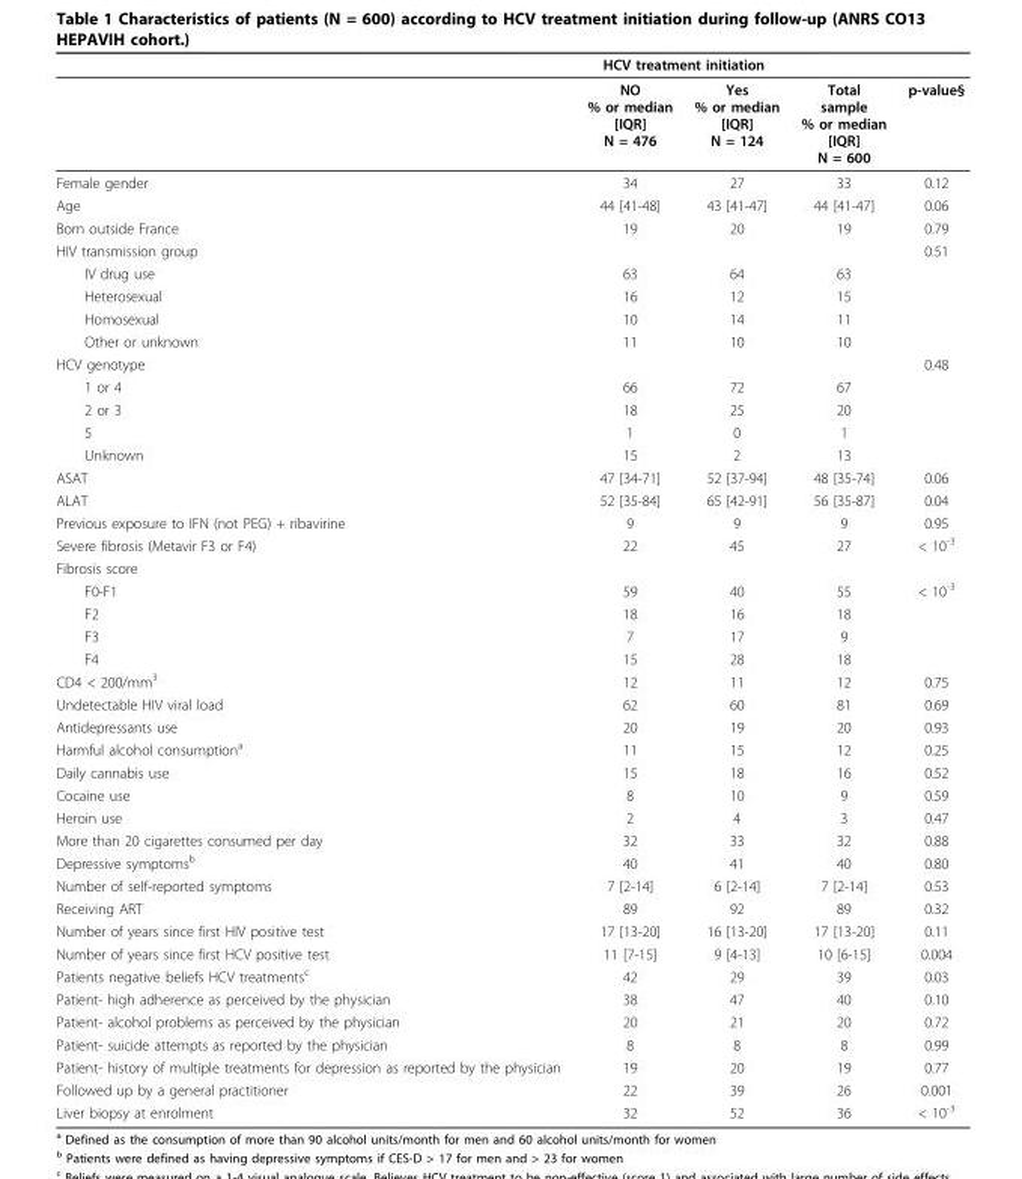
<table><thead><tr><td rowspan="2"></td><td colspan="2">HCV treatment initiation</td><td rowspan="2">Total sample % or median [IQR] N = 600</td><td rowspan="2">p-value§</td></tr><tr><td>NO % or median [IQR] N = 476</td><td>Yes % or median [IQR] N = 124</td></tr></thead><tbody><tr><td>Female gender</td><td>34</td><td>27</td><td>33</td><td>0.12</td></tr><tr><td>Age</td><td>44 [41-48]</td><td>43 [41-47]</td><td>44 [41-47]</td><td>0.06</td></tr><tr><td>Born outside France</td><td>19</td><td>20</td><td>19</td><td>0.79</td></tr><tr><td>HIV transmission group</td><td></td><td></td><td></td><td>0.51</td></tr><tr><td>IV drug use</td><td>63</td><td>64</td><td>63</td><td></td></tr><tr><td>Heterosexual</td><td>16</td><td>12</td><td>15</td><td></td></tr><tr><td>Homosexual</td><td>10</td><td>14</td><td>11</td><td></td></tr><tr><td>Other or unknown</td><td>11</td><td>10</td><td>10</td><td></td></tr><tr><td>HCV genotype</td><td></td><td></td><td></td><td>0.48</td></tr><tr><td>1 or 4</td><td>66</td><td>72</td><td>67</td><td></td></tr><tr><td>2 or 3</td><td>18</td><td>25</td><td>20</td><td></td></tr><tr><td>5</td><td>1</td><td>0</td><td>1</td><td></td></tr><tr><td>Unknown</td><td>15</td><td>2</td><td>13</td><td></td></tr><tr><td>ASAT</td><td>47 [34-71]</td><td>52 [37-94]</td><td>48 [35-74]</td><td>0.06</td></tr><tr><td>ALAT</td><td>52 [35-84]</td><td>65 [42-91]</td><td>56 [35-87]</td><td>0.04</td></tr><tr><td>Previous exposure to IFN (not PEG) + ribavirine</td><td>9</td><td>9</td><td>9</td><td>0.95</td></tr><tr><td>Severe fibrosis (Metavir F3 or F4)</td><td>22</td><td>45</td><td>27</td><td>&lt; 10<sup>-3</sup></td></tr><tr><td colspan="5">Fibrosis score</td></tr><tr><td>F0-F1</td><td>59</td><td>40</td><td>55</td><td>&lt; 10<sup>-3</sup></td></tr><tr><td>F2</td><td>18</td><td>16</td><td>18</td><td></td></tr><tr><td>F3</td><td>7</td><td>17</td><td>9</td><td></td></tr><tr><td>F4</td><td>15</td><td>28</td><td>18</td><td></td></tr><tr><td>CD4 &lt; 200/mm<sup>3</sup></td><td>12</td><td>11</td><td>12</td><td>0.75</td></tr><tr><td>Undetectable HIV viral load</td><td>62</td><td>60</td><td>81</td><td>0.69</td></tr><tr><td>Antidepressants use</td><td>20</td><td>19</td><td>20</td><td>0.93</td></tr><tr><td>Harmful alcohol consumption<sup>a</sup></td><td>11</td><td>15</td><td>12</td><td>0.25</td></tr><tr><td>Daily cannabis use</td><td>15</td><td>18</td><td>16</td><td>0.52</td></tr><tr><td>Cocaine use</td><td>8</td><td>10</td><td>9</td><td>0.59</td></tr><tr><td>Heroin use</td><td>2</td><td>4</td><td>3</td><td>0.47</td></tr><tr><td>More than 20 cigarettes consumed per day</td><td>32</td><td>33</td><td>32</td><td>0.88</td></tr><tr><td>Depressive symptoms<sup>b</sup></td><td>40</td><td>41</td><td>40</td><td>0.80</td></tr><tr><td>Number of self-reported symptoms</td><td>7 [2-14]</td><td>6 [2-14]</td><td>7 [2-14]</td><td>0.53</td></tr><tr><td>Receiving ART</td><td>89</td><td>92</td><td>89</td><td>0.32</td></tr><tr><td>Number of years since first HIV positive test</td><td>17 [13-20]</td><td>16 [13-20]</td><td>17 [13-20]</td><td>0.11</td></tr><tr><td>Number of years since first HCV positive test</td><td>11 [7-15]</td><td>9 [4-13]</td><td>10 [6-15]</td><td>0.004</td></tr><tr><td>Patients negative beliefs HCV treatments<sup>c</sup></td><td>42</td><td>29</td><td>39</td><td>0.03</td></tr><tr><td>Patient- high adherence as perceived by the physician</td><td>38</td><td>47</td><td>40</td><td>0.10</td></tr><tr><td>Patient- alcohol problems as perceived by the physician</td><td>20</td><td>21</td><td>20</td><td>0.72</td></tr><tr><td>Patient- suicide attempts as reported by the physician</td><td>8</td><td>8</td><td>8</td><td>0.99</td></tr><tr><td>Patient- history of multiple treatments for depression as reported by the physician</td><td>19</td><td>20</td><td>19</td><td>0.77</td></tr><tr><td>Followed up by a general practitioner</td><td>22</td><td>39</td><td>26</td><td>0.001</td></tr><tr><td>Liver biopsy at enrolment</td><td>32</td><td>52</td><td>36</td><td>&lt; 10<sup>-3</sup></td></tr></tbody></table>